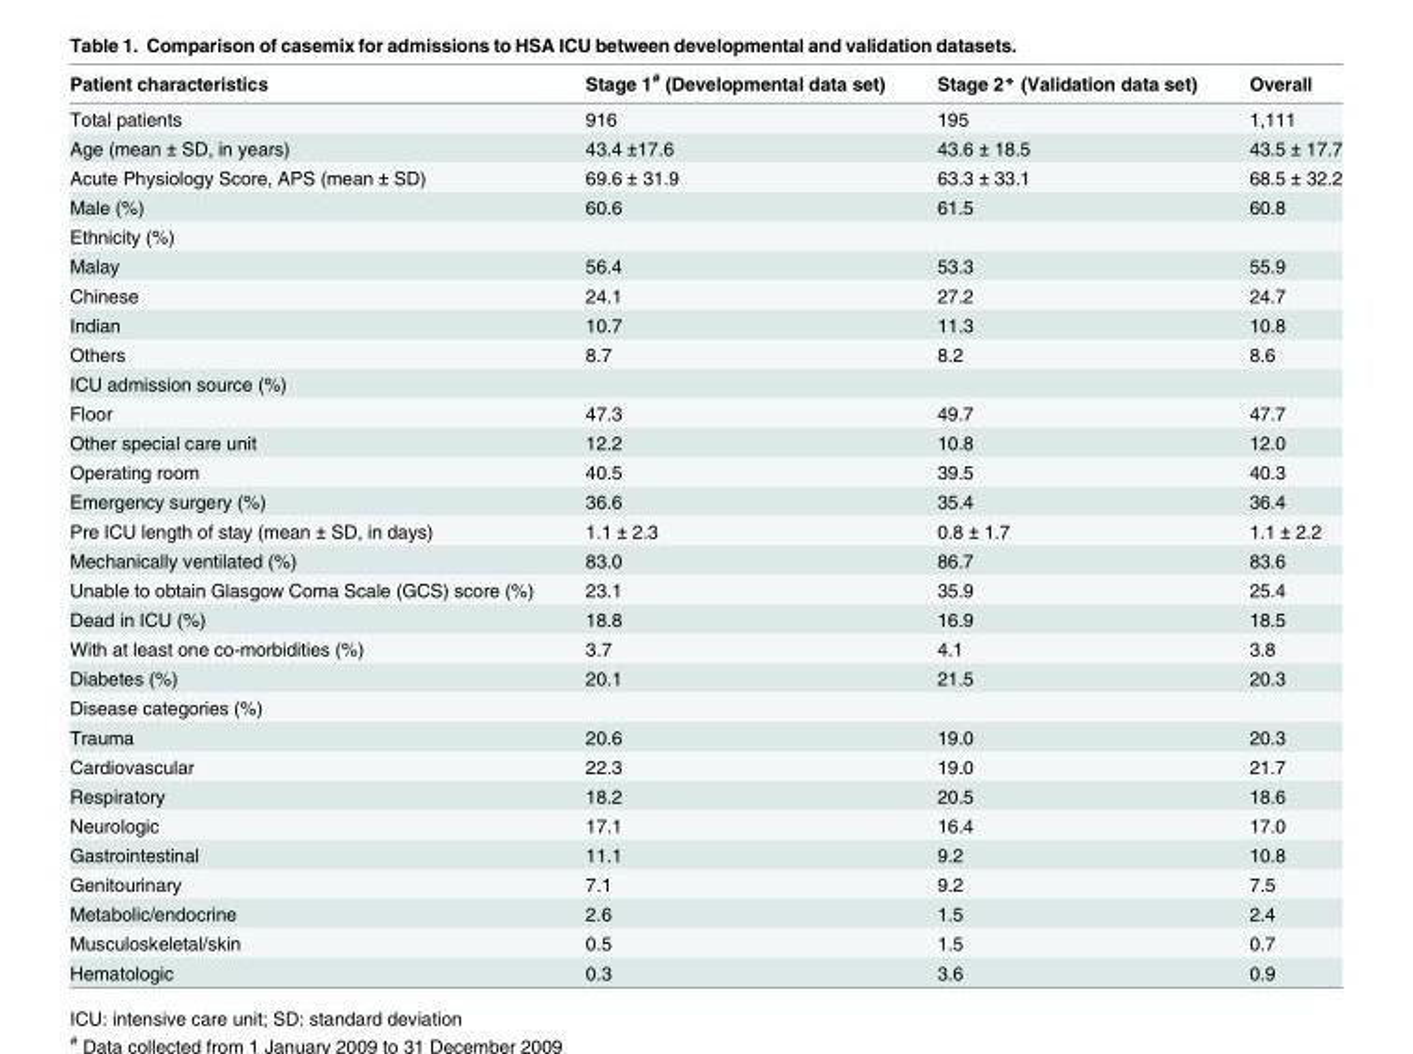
<table><thead><tr><td>Patient characteristics</td><td>Stage 1<sup>#</sup> (Developmental data set)</td><td>Stage 2* (Validation data set)</td><td>Overall</td></tr></thead><tbody><tr><td>Total patients</td><td>916</td><td>195</td><td>1,111</td></tr><tr><td>Age (mean ± SD, in years)</td><td>43.4 ±17.6</td><td>43.6 ± 18.5</td><td>43.5 ± 17.7</td></tr><tr><td>Acute Physiology Score, APS (mean ± SD)</td><td>69.6 ± 31.9</td><td>63.3 ± 33.1</td><td>68.5 ± 32.2</td></tr><tr><td>Male (%)</td><td>60.6</td><td>61.5</td><td>60.8</td></tr><tr><td colspan="4">Ethnicity (%)</td></tr><tr><td>Malay</td><td>56.4</td><td>53.3</td><td>55.9</td></tr><tr><td>Chinese</td><td>24.1</td><td>27.2</td><td>24.7</td></tr><tr><td>Indian</td><td>10.7</td><td>11.3</td><td>10.8</td></tr><tr><td>Others</td><td>8.7</td><td>8.2</td><td>8.6</td></tr><tr><td colspan="4">ICU admission source (%)</td></tr><tr><td>Floor</td><td>47.3</td><td>49.7</td><td>47.7</td></tr><tr><td>Other special care unit</td><td>12.2</td><td>10.8</td><td>12.0</td></tr><tr><td>Operating room</td><td>40.5</td><td>39.5</td><td>40.3</td></tr><tr><td>Emergency surgery (%)</td><td>36.6</td><td>35.4</td><td>36.4</td></tr><tr><td>Pre ICU length of stay (mean ± SD, in days)</td><td>1.1 ± 2.3</td><td>0.8 ± 1.7</td><td>1.1 ± 2.2</td></tr><tr><td>Mechanically ventilated (%)</td><td>83.0</td><td>86.7</td><td>83.6</td></tr><tr><td>Unable to obtain Glasgow Coma Scale (GCS) score (%)</td><td>23.1</td><td>35.9</td><td>25.4</td></tr><tr><td>Dead in ICU (%)</td><td>18.8</td><td>16.9</td><td>18.5</td></tr><tr><td>With at least one co-morbidities (%)</td><td>3.7</td><td>4.1</td><td>3.8</td></tr><tr><td>Diabetes (%)</td><td>20.1</td><td>21.5</td><td>20.3</td></tr><tr><td colspan="4">Disease categories (%)</td></tr><tr><td>Trauma</td><td>20.6</td><td>19.0</td><td>20.3</td></tr><tr><td>Cardiovascular</td><td>22.3</td><td>19.0</td><td>21.7</td></tr><tr><td>Respiratory</td><td>18.2</td><td>20.5</td><td>18.6</td></tr><tr><td>Neurologic</td><td>17.1</td><td>16.4</td><td>17.0</td></tr><tr><td>Gastrointestinal</td><td>11.1</td><td>9.2</td><td>10.8</td></tr><tr><td>Genitourinary</td><td>7.1</td><td>9.2</td><td>7.5</td></tr><tr><td>Metabolic/endocrine</td><td>2.6</td><td>1.5</td><td>2.4</td></tr><tr><td>Musculoskeletal/skin</td><td>0.5</td><td>1.5</td><td>0.7</td></tr><tr><td>Hematologic</td><td>0.3</td><td>3.6</td><td>0.9</td></tr></tbody></table>